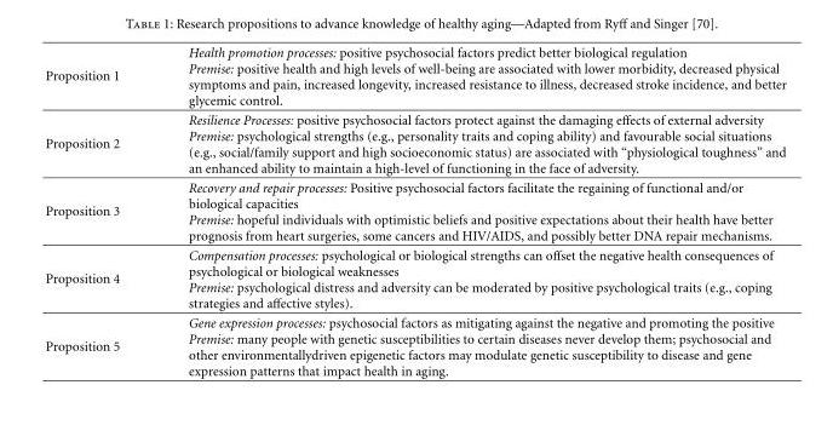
<table><tbody><tr><td rowspan="2">Proposition 1</td><td>Health promotion processes: positive psychosocial factors predict better biological regulation</td></tr><tr><td>Premise: positive health and high levels of well-being are associated with lower morbidity, decreased physical symptoms and pain, increased longevity, increased resistance to illness, decreased stroke incidence, and better glycemic control.</td></tr><tr><td rowspan="2">Proposition 2</td><td>Resilience Processes: positive psychosocial factors protect against the damaging effects of external adversity</td></tr><tr><td>Premise: psychological strengths (e.g., personality traits and coping ability) and favourable social situations (e.g., social/family support and high socioeconomic status) are associated with “physiological toughness” and an enhanced ability to maintain a high-level of functioning in the face of adversity.</td></tr><tr><td rowspan="2">Proposition 3</td><td>Recovery and repair processes: Positive psychosocial factors facilitate the regaining of functional and/or biological capacities</td></tr><tr><td>Premise: hopeful individuals with optimistic beliefs and positive expectations about their health have better prognosis from heart surgeries, some cancers and HIV/AIDS, and possibly better DNA repair mechanisms.</td></tr><tr><td rowspan="2">Proposition 4</td><td>Compensation processes: psychological or biological strengths can offset the negative health consequences of psychological or biological weaknesses</td></tr><tr><td>Premise: psychological distress and adversity can be moderated by positive psychological traits (e.g., coping strategies and affective styles).</td></tr><tr><td rowspan="2">Proposition 5</td><td>Gene expression processes: psychosocial factors as mitigating against the negative and promoting the positive</td></tr><tr><td>Premise: many people with genetic susceptibilities to certain diseases never develop them; psychosocial and other environmentallydriven epigenetic factors may modulate genetic susceptibility to disease and gene expression patterns that impact health in aging.</td></tr></tbody></table>